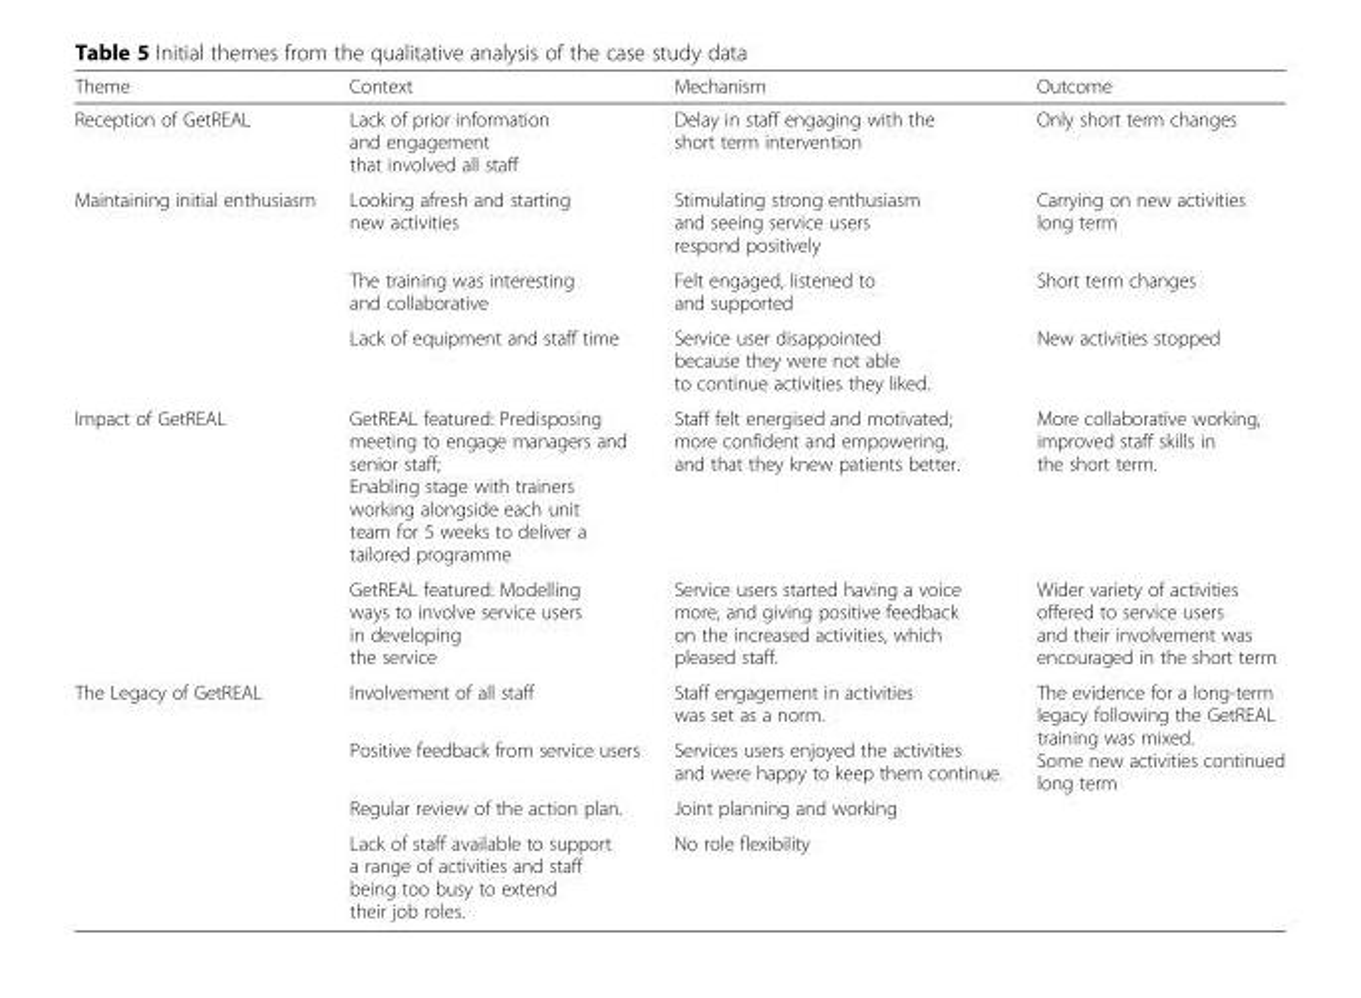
<table><thead><tr><td>Theme</td><td>Context</td><td>Mechanism</td><td>Outcome</td></tr></thead><tbody><tr><td>Reception of GetREAL</td><td>Lack of prior information and engagement that involved all staff</td><td>Delay in staff engaging with the short term intervention</td><td>Only short term changes</td></tr><tr><td rowspan="3">Maintaining initial enthusiasm</td><td>Looking afresh and starting new activities</td><td>Stimulating strong enthusiasm and seeing service users respond positively</td><td>Carrying on new activities long term</td></tr><tr><td>The training was interesting and collaborative</td><td>Felt engaged, listened to and supported</td><td>Short term changes</td></tr><tr><td>Lack of equipment and staff time</td><td>Service user disappointed because they were not able to continue activities they liked.</td><td>New activities stopped</td></tr><tr><td rowspan="2">Impact of GetREAL</td><td>GetREAL featured: Predisposing meeting to engage managers and senior staff; Enabling stage with trainers working alongside each unit team for 5 weeks to deliver a tailored programme</td><td>Staff felt energised and motivated; more confident and empowering, and that they knew patients better.</td><td>More collaborative working, improved staff skills in the short term.</td></tr><tr><td>GetREAL featured: Modelling ways to involve service users in developing the service</td><td>Service users started having a voice more, and giving positive feedback on the increased activities, which pleased staff.</td><td>Wider variety of activities offered to service users and their involvement was encouraged in the short term</td></tr><tr><td rowspan="4">The Legacy of GetREAL</td><td>Involvement of all staff</td><td>Staff engagement in activities was set as a norm.</td><td rowspan="4">The evidence for a long-term legacy following the GetREAL training was mixed. Some new activities continued long term</td></tr><tr><td>Positive feedback from service users</td><td>Services users enjoyed the activities and were happy to keep them continue.</td></tr><tr><td>Regular review of the action plan.</td><td>Joint planning and working</td></tr><tr><td>Lack of staff available to support a range of activities and staff being too busy to extend their job roles.</td><td>No role flexibility</td></tr></tbody></table>